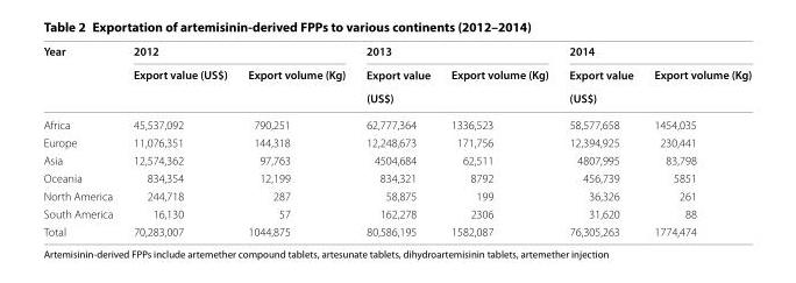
<table><thead><tr><td rowspan="3">Year</td><td colspan="2">2012</td><td colspan="2">2013</td><td colspan="2">2014</td></tr><tr><td rowspan="2">Export value (US$)</td><td rowspan="2">Export volume (Kg)</td><td rowspan="2">Export value (US$)</td><td rowspan="2">Export volume (Kg)</td><td rowspan="2">Export value (US$)</td><td rowspan="2">Export volume (Kg)</td></tr><tr></tr></thead><tbody><tr><td>Africa</td><td>45,537,092</td><td>790,251</td><td>62,777,364</td><td>1336,523</td><td>58,577,658</td><td>1454,035</td></tr><tr><td>Europe</td><td>11,076,351</td><td>144,318</td><td>12,248,673</td><td>171,756</td><td>12,394,925</td><td>230,441</td></tr><tr><td>Asia</td><td>12,574,362</td><td>97,763</td><td>4504,684</td><td>62,511</td><td>4807,995</td><td>83,798</td></tr><tr><td>Oceania</td><td>834,354</td><td>12,199</td><td>834,321</td><td>8792</td><td>456,739</td><td>5851</td></tr><tr><td>North America</td><td>244,718</td><td>287</td><td>58,875</td><td>199</td><td>36,326</td><td>261</td></tr><tr><td>South America</td><td>16,130</td><td>57</td><td>162,278</td><td>2306</td><td>31,620</td><td>88</td></tr><tr><td>Total</td><td>70,283,007</td><td>1044,875</td><td>80,586,195</td><td>1582,087</td><td>76,305,263</td><td>1774,474</td></tr></tbody></table>